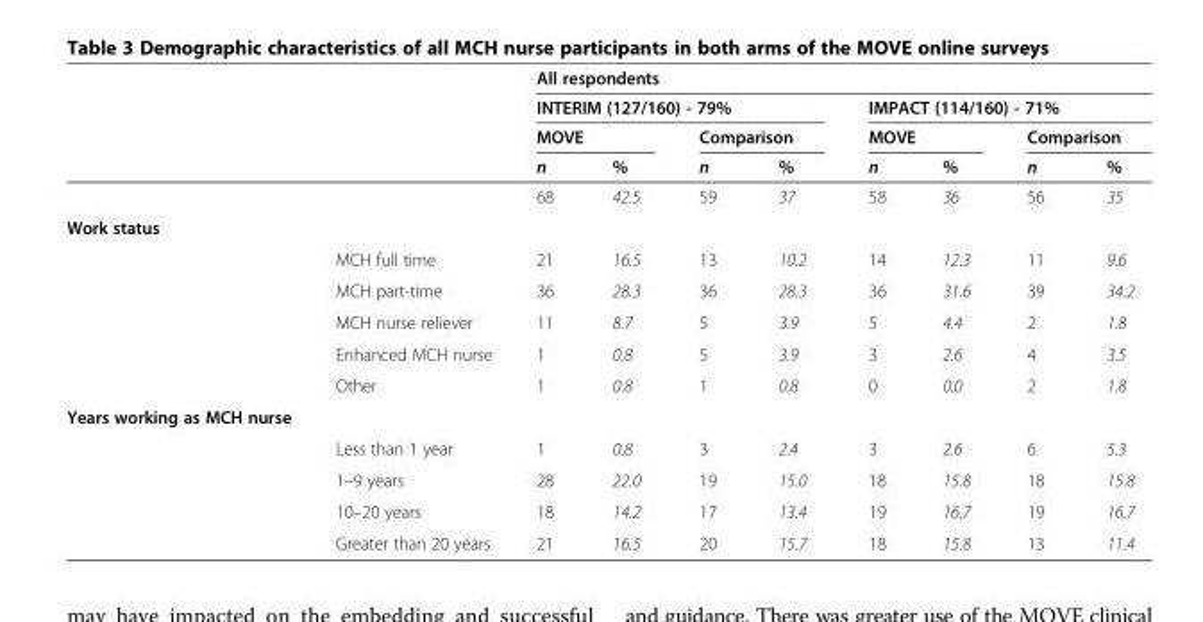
<table><thead><tr><td rowspan="4"></td><td rowspan="4"></td><td colspan="8">All respondents</td></tr><tr><td colspan="4">INTERIM (127/160) - 79%</td><td colspan="4">IMPACT (114/160) - 71%</td></tr><tr><td colspan="2">MOVE</td><td colspan="2">Comparison</td><td colspan="2">MOVE</td><td colspan="2">Comparison</td></tr><tr><td>n</td><td>%</td><td>n</td><td>%</td><td>n</td><td>%</td><td>n</td><td>%</td></tr></thead><tbody><tr><td></td><td></td><td>68</td><td>42.5</td><td>59</td><td>37</td><td>58</td><td>36</td><td>56</td><td>35</td></tr><tr><td colspan="10">Work status</td></tr><tr><td></td><td>MCH full time</td><td>21</td><td>16.5</td><td>13</td><td>10.2</td><td>14</td><td>12.3</td><td>11</td><td>9.6</td></tr><tr><td></td><td>MCH part-time</td><td>36</td><td>28.3</td><td>36</td><td>28.3</td><td>36</td><td>31.6</td><td>39</td><td>34.2</td></tr><tr><td></td><td>MCH nurse reliever</td><td>11</td><td>8.7</td><td>5</td><td>3.9</td><td>5</td><td>4.4</td><td>2</td><td>1.8</td></tr><tr><td></td><td>Enhanced MCH nurse</td><td>1</td><td>0.8</td><td>5</td><td>3.9</td><td>3</td><td>2.6</td><td>4</td><td>3.5</td></tr><tr><td></td><td>Other</td><td>1</td><td>0.8</td><td>1</td><td>0.8</td><td>0</td><td>0.0</td><td>2</td><td>1.8</td></tr><tr><td colspan="10">Years working as MCH nurse</td></tr><tr><td></td><td>Less than 1 year</td><td>1</td><td>0.8</td><td>3</td><td>2.4</td><td>3</td><td>2.6</td><td>6</td><td>5.3</td></tr><tr><td></td><td>1–9 years</td><td>28</td><td>22.0</td><td>19</td><td>15.0</td><td>18</td><td>15.8</td><td>18</td><td>15.8</td></tr><tr><td></td><td>10–20 years</td><td>18</td><td>14.2</td><td>17</td><td>13.4</td><td>19</td><td>16.7</td><td>19</td><td>16.7</td></tr><tr><td></td><td>Greater than 20 years</td><td>21</td><td>16.5</td><td>20</td><td>15.7</td><td>18</td><td>15.8</td><td>13</td><td>11.4</td></tr></tbody></table>